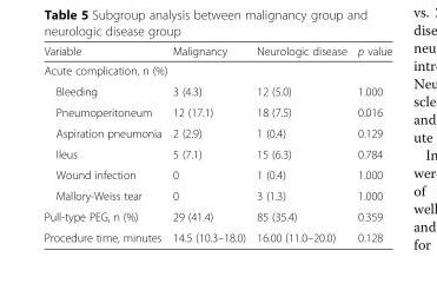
<table><thead><tr><td>Variable</td><td>Malignancy</td><td>Neurologic disease</td><td>p value</td></tr></thead><tbody><tr><td colspan="4">Acute complication, n (%)</td></tr><tr><td>Bleeding</td><td>3 (4.3)</td><td>12 (5.0)</td><td>1.000</td></tr><tr><td>Pneumoperitoneum</td><td>12 (17.1)</td><td>18 (7.5)</td><td>0.016</td></tr><tr><td>Aspiration pneumonia</td><td>2 (2.9)</td><td>1 (0.4)</td><td>0.129</td></tr><tr><td>Ileus</td><td>5 (7.1)</td><td>15 (6.3)</td><td>0.784</td></tr><tr><td>Wound infection</td><td>0</td><td>1 (0.4)</td><td>1.000</td></tr><tr><td>Mallory-Weiss tear</td><td>0</td><td>3 (1.3)</td><td>1.000</td></tr><tr><td>Pull-type PEG, n (%)</td><td>29 (41.4)</td><td>85 (35.4)</td><td>0.359</td></tr><tr><td>Procedure time, minutes</td><td>14.5 (10.3–18.0)</td><td>16.00 (11.0–20.0)</td><td>0.128</td></tr></tbody></table>